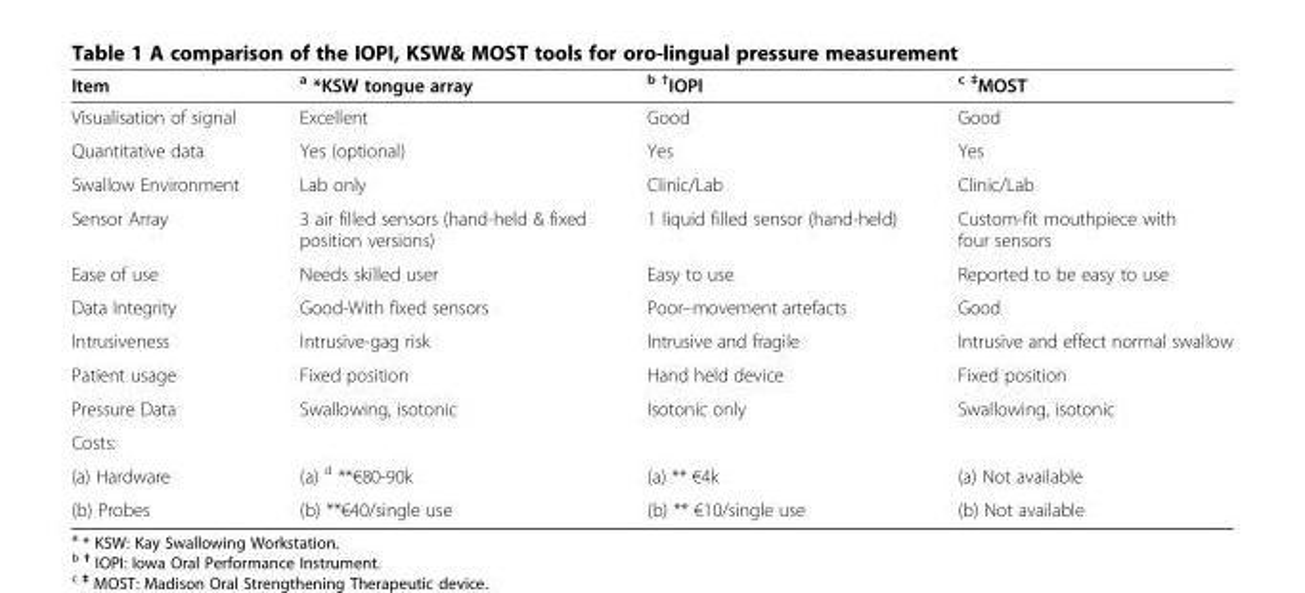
<table><thead><tr><td>Item</td><td><sup>a</sup> *KSW tongue array</td><td><sup>b †</sup>IOPI</td><td><sup>c ‡</sup>MOST</td></tr></thead><tbody><tr><td>Visualisation of signal</td><td>Excellent</td><td>Good</td><td>Good</td></tr><tr><td>Quantitative data</td><td>Yes (optional)</td><td>Yes</td><td>Yes</td></tr><tr><td>Swallow Environment</td><td>Lab only</td><td>Clinic/Lab</td><td>Clinic/Lab</td></tr><tr><td>Sensor Array</td><td>3 air filled sensors (hand-held &amp; fixed position versions)</td><td>1 liquid filled sensor (hand-held)</td><td>Custom-fit mouthpiece with four sensors</td></tr><tr><td>Ease of use</td><td>Needs skilled user</td><td>Easy to use</td><td>Reported to be easy to use</td></tr><tr><td>Data Integrity</td><td>Good-With fixed sensors</td><td>Poor–movement artefacts</td><td>Good</td></tr><tr><td>Intrusiveness</td><td>Intrusive-gag risk</td><td>Intrusive and fragile</td><td>Intrusive and effect normal swallow</td></tr><tr><td>Patient usage</td><td>Fixed position</td><td>Hand held device</td><td>Fixed position</td></tr><tr><td>Pressure Data</td><td>Swallowing, isotonic</td><td>Isotonic only</td><td>Swallowing, isotonic</td></tr><tr><td colspan="4">Costs:</td></tr><tr><td>(a) Hardware</td><td>(a) <sup>d</sup> **€80-90k</td><td>(a) ** €4k</td><td>(a) Not available</td></tr><tr><td>(b) Probes</td><td>(b) **€40/single use</td><td>(b) ** €10/single use</td><td>(b) Not available</td></tr></tbody></table>